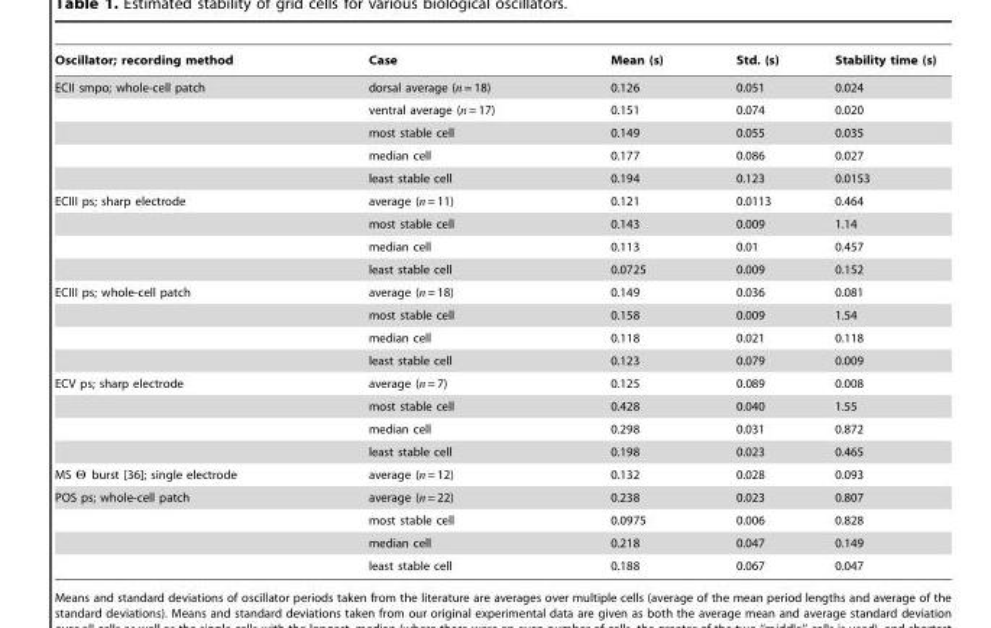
<table><thead><tr><td>Oscillator; recording method</td><td>Case</td><td>Mean (s)</td><td>Std. (s)</td><td>Stability time (s)</td></tr></thead><tbody><tr><td rowspan="5">ECII smpo; whole-cell patch</td><td>dorsal average (n = 18)</td><td>0.126</td><td>0.051</td><td>0.024</td></tr><tr><td>ventral average (n = 17)</td><td>0.151</td><td>0.074</td><td>0.020</td></tr><tr><td>most stable cell</td><td>0.149</td><td>0.055</td><td>0.035</td></tr><tr><td>median cell</td><td>0.177</td><td>0.086</td><td>0.027</td></tr><tr><td>least stable cell</td><td>0.194</td><td>0.123</td><td>0.0153</td></tr><tr><td rowspan="4">ECIII ps; sharp electrode</td><td>average (n = 11)</td><td>0.121</td><td>0.0113</td><td>0.464</td></tr><tr><td>most stable cell</td><td>0.143</td><td>0.009</td><td>1.14</td></tr><tr><td>median cell</td><td>0.113</td><td>0.01</td><td>0.457</td></tr><tr><td>least stable cell</td><td>0.0725</td><td>0.009</td><td>0.152</td></tr><tr><td rowspan="4">ECIII ps; whole-cell patch</td><td>average (n = 18)</td><td>0.149</td><td>0.036</td><td>0.081</td></tr><tr><td>most stable cell</td><td>0.158</td><td>0.009</td><td>1.54</td></tr><tr><td>median cell</td><td>0.118</td><td>0.021</td><td>0.118</td></tr><tr><td>least stable cell</td><td>0.123</td><td>0.079</td><td>0.009</td></tr><tr><td rowspan="4">ECV ps; sharp electrode</td><td>average (n = 7)</td><td>0.125</td><td>0.089</td><td>0.008</td></tr><tr><td>most stable cell</td><td>0.428</td><td>0.040</td><td>1.55</td></tr><tr><td>median cell</td><td>0.298</td><td>0.031</td><td>0.872</td></tr><tr><td>least stable cell</td><td>0.198</td><td>0.023</td><td>0.465</td></tr><tr><td>MS H burst [36]; single electrode</td><td>average (n = 12)</td><td>0.132</td><td>0.028</td><td>0.093</td></tr><tr><td rowspan="4">POS ps; whole-cell patch</td><td>average (n = 22)</td><td>0.238</td><td>0.023</td><td>0.807</td></tr><tr><td>most stable cell</td><td>0.0975</td><td>0.006</td><td>0.828</td></tr><tr><td>median cell</td><td>0.218</td><td>0.047</td><td>0.149</td></tr><tr><td>least stable cell</td><td>0.188</td><td>0.067</td><td>0.047</td></tr></tbody></table>